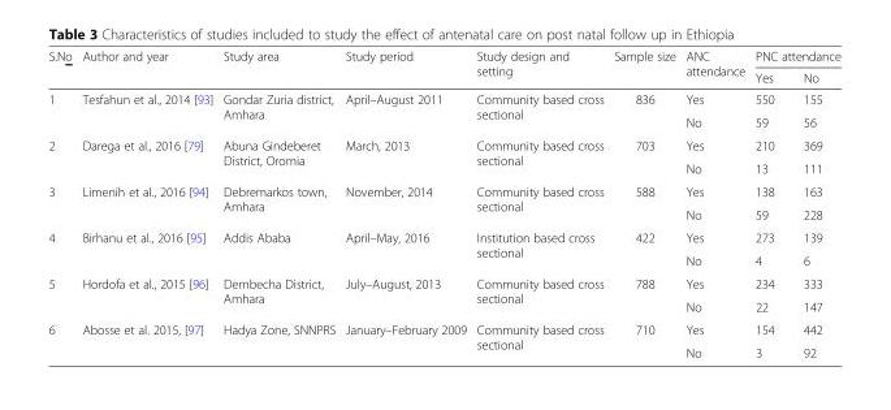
<table><thead><tr><td rowspan="2">S.No</td><td rowspan="2">Author and year</td><td rowspan="2">Study area</td><td rowspan="2">Study period</td><td rowspan="2">Study design and setting</td><td rowspan="2">Sample size</td><td rowspan="2">ANC attendance</td><td colspan="2">PNC attendance</td></tr><tr><td>Yes</td><td>No</td></tr></thead><tbody><tr><td rowspan="2">1</td><td rowspan="2">Tesfahun et al., 2014 [93]</td><td rowspan="2">Gondar Zuria district, Amhara</td><td rowspan="2">April–August 2011</td><td rowspan="2">Community based cross sectional</td><td rowspan="2">836</td><td>Yes</td><td>550</td><td>155</td></tr><tr><td>No</td><td>59</td><td>56</td></tr><tr><td rowspan="2">2</td><td rowspan="2">Darega et al., 2016 [79]</td><td rowspan="2">Abuna Gindeberet District, Oromia</td><td rowspan="2">March, 2013</td><td rowspan="2">Community based cross sectional</td><td rowspan="2">703</td><td>Yes</td><td>210</td><td>369</td></tr><tr><td>No</td><td>13</td><td>111</td></tr><tr><td rowspan="2">3</td><td rowspan="2">Limenih et al., 2016 [94]</td><td rowspan="2">Debremarkos town, Amhara</td><td rowspan="2">November, 2014</td><td rowspan="2">Community based cross sectional</td><td rowspan="2">588</td><td>Yes</td><td>138</td><td>163</td></tr><tr><td>No</td><td>59</td><td>228</td></tr><tr><td rowspan="2">4</td><td rowspan="2">Birhanu et al., 2016 [95]</td><td rowspan="2">Addis Ababa</td><td rowspan="2">April–May, 2016</td><td rowspan="2">Institution based cross sectional</td><td rowspan="2">422</td><td>Yes</td><td>273</td><td>139</td></tr><tr><td>No</td><td>4</td><td>6</td></tr><tr><td rowspan="2">5</td><td rowspan="2">Hordofa et al., 2015 [96]</td><td rowspan="2">Dembecha District, Amhara</td><td rowspan="2">July–August, 2013</td><td rowspan="2">Community based cross sectional</td><td rowspan="2">788</td><td>Yes</td><td>234</td><td>333</td></tr><tr><td>No</td><td>22</td><td>147</td></tr><tr><td rowspan="2">6</td><td rowspan="2">Abosse et al. 2015, [97]</td><td rowspan="2">Hadya Zone, SNNPRS</td><td rowspan="2">January–February 2009</td><td rowspan="2">Community based cross sectional</td><td rowspan="2">710</td><td>Yes</td><td>154</td><td>442</td></tr><tr><td>No</td><td>3</td><td>92</td></tr></tbody></table>